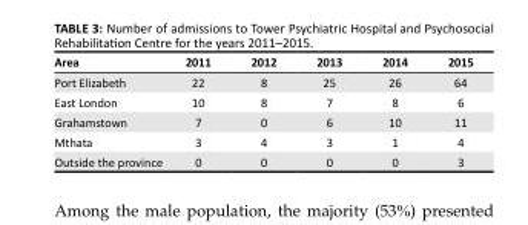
<table><thead><tr><td>Area</td><td>2011</td><td>2012</td><td>2013</td><td>2014</td><td>2015</td></tr></thead><tbody><tr><td>Port Elizabeth</td><td>22</td><td>8</td><td>25</td><td>26</td><td>64</td></tr><tr><td>East London</td><td>10</td><td>8</td><td>7</td><td>8</td><td>6</td></tr><tr><td>Grahamstown</td><td>7</td><td>0</td><td>6</td><td>10</td><td>11</td></tr><tr><td>Mthata</td><td>3</td><td>4</td><td>3</td><td>1</td><td>4</td></tr><tr><td>Outside the province</td><td>0</td><td>0</td><td>0</td><td>0</td><td>3</td></tr></tbody></table>